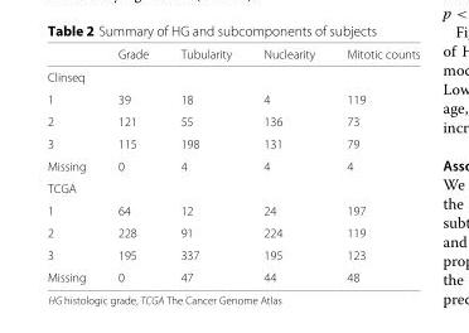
<table><thead><tr><td></td><td>Grade</td><td>Tubularity</td><td>Nuclearity</td><td>Mitotic counts</td></tr></thead><tbody><tr><td colspan="5">Clinseq</td></tr><tr><td>1</td><td>39</td><td>18</td><td>4</td><td>119</td></tr><tr><td>2</td><td>121</td><td>55</td><td>136</td><td>73</td></tr><tr><td>3</td><td>115</td><td>198</td><td>131</td><td>79</td></tr><tr><td>Missing</td><td>0</td><td>4</td><td>4</td><td>4</td></tr><tr><td colspan="5">TCGA</td></tr><tr><td>1</td><td>64</td><td>12</td><td>24</td><td>197</td></tr><tr><td>2</td><td>228</td><td>91</td><td>224</td><td>119</td></tr><tr><td>3</td><td>195</td><td>337</td><td>195</td><td>123</td></tr><tr><td>Missing</td><td>0</td><td>47</td><td>44</td><td>48</td></tr></tbody></table>